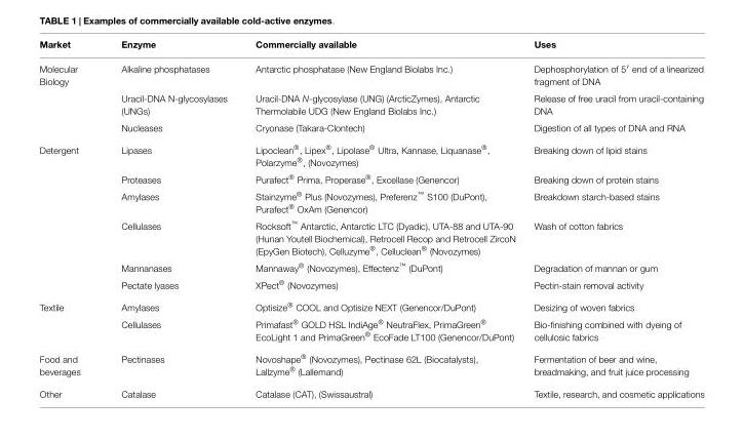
<table><thead><tr><td>Market</td><td>Enzyme</td><td>Commercially available</td><td>Uses</td></tr></thead><tbody><tr><td rowspan="3">Molecular Biology</td><td>Alkaline phosphatases</td><td>Antarctic phosphatase (New England Biolabs Inc.)</td><td>Dephosphorylation of 5′ end of a linearized fragment of DNA</td></tr><tr><td>Uracil-DNA N-glycosylases (UNGs)</td><td>Uracil-DNA N-glycosylase (UNG) (ArcticZymes), Antarctic Thermolabile UDG (New England Biolabs Inc.)</td><td>Release of free uracil from uracil-containing DNA</td></tr><tr><td>Nucleases</td><td>Cryonase (Takara-Clontech)</td><td>Digestion of all types of DNA and RNA</td></tr><tr><td rowspan="6">Detergent</td><td>Lipases</td><td>Lipoclean<sup>®</sup>, Lipex<sup>®</sup>, Lipolase<sup>®</sup> Ultra, Kannase, Liquanase<sup>®</sup>, Polarzyme<sup>®</sup>, (Novozymes)</td><td>Breaking down of lipid stains</td></tr><tr><td>Proteases</td><td>Purafect<sup>®</sup> Prima, Properase<sup>®</sup>, Excellase (Genencor)</td><td>Breaking down of protein stains</td></tr><tr><td>Amylases</td><td>Stainzyme<sup>®</sup> Plus (Novozymes), Preferenz<sup>™</sup> S100 (DuPont), Purafect<sup>®</sup> OxAm (Genencor)</td><td>Breakdown starch-based stains</td></tr><tr><td>Cellulases</td><td>Rocksoft<sup>™</sup> Antarctic, Antarctic LTC (Dyadic), UTA-88 and UTA-90 (Hunan Youtell Biochemical), Retrocell Recop and Retrocell ZircoN (EpyGen Biotech), Celluzyme<sup>®</sup>, Celluclean<sup>®</sup> (Novozymes)</td><td>Wash of cotton fabrics</td></tr><tr><td>Mannanases</td><td>Mannaway<sup>®</sup> (Novozymes), Effectenz<sup>™</sup> (DuPont)</td><td>Degradation of mannan or gum</td></tr><tr><td>Pectate lyases</td><td>XPect<sup>®</sup> (Novozymes)</td><td>Pectin-stain removal activity</td></tr><tr><td rowspan="2">Textile</td><td>Amylases</td><td>Optisize<sup>®</sup> COOL and Optisize NEXT (Genencor/DuPont)</td><td>Desizing of woven fabrics</td></tr><tr><td>Cellulases</td><td>Primafast<sup>®</sup> GOLD HSL IndiAge<sup>®</sup> NeutraFlex, PrimaGreen<sup>®</sup> EcoLight 1 and PrimaGreen<sup>®</sup> EcoFade LT100 (Genencor/DuPont)</td><td>Bio-finishing combined with dyeing of cellulosic fabrics</td></tr><tr><td>Food and beverages</td><td>Pectinases</td><td>Novoshape<sup>®</sup> (Novozymes), Pectinase 62L (Biocatalysts), Lallzyme<sup>®</sup> (Lallemand)</td><td>Fermentation of beer and wine, breadmaking, and fruit juice processing</td></tr><tr><td>Other</td><td>Catalase</td><td>Catalase (CAT), (Swissaustral)</td><td>Textile, research, and cosmetic applications</td></tr></tbody></table>